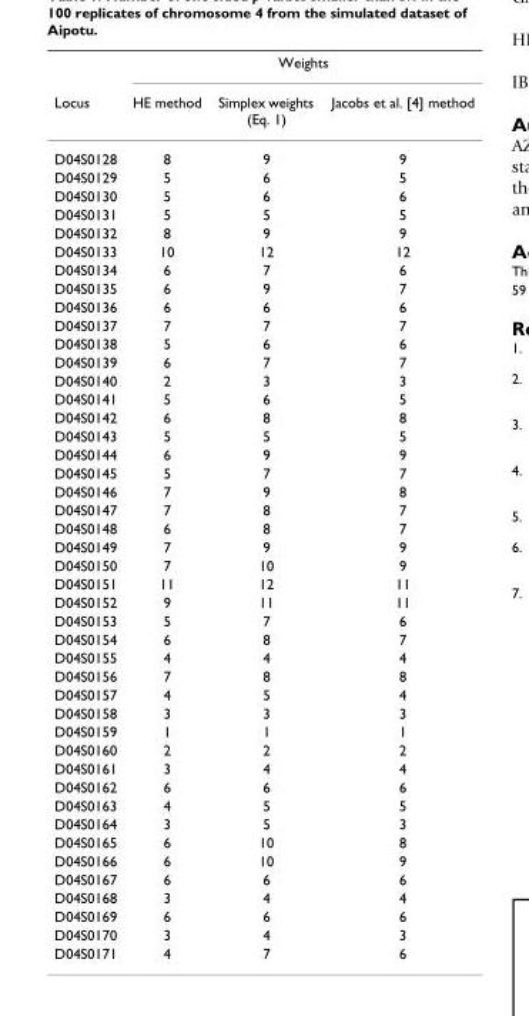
<table><thead><tr><td rowspan="2">Locus</td><td colspan="3">Weights</td></tr><tr><td>HE method</td><td>Simplex weights (Eq. 1)</td><td>Jacobs et al. [4] method</td></tr></thead><tbody><tr><td>D04S0128</td><td>8</td><td>9</td><td>9</td></tr><tr><td>D04S0129</td><td>5</td><td>6</td><td>5</td></tr><tr><td>D04S0130</td><td>5</td><td>6</td><td>6</td></tr><tr><td>D04S0131</td><td>5</td><td>5</td><td>5</td></tr><tr><td>D04S0132</td><td>8</td><td>9</td><td>9</td></tr><tr><td>D04S0133</td><td>10</td><td>12</td><td>12</td></tr><tr><td>D04S0134</td><td>6</td><td>7</td><td>6</td></tr><tr><td>D04S0135</td><td>6</td><td>9</td><td>7</td></tr><tr><td>D04S0136</td><td>6</td><td>6</td><td>6</td></tr><tr><td>D04S0137</td><td>7</td><td>7</td><td>7</td></tr><tr><td>D04S0138</td><td>5</td><td>6</td><td>6</td></tr><tr><td>D04S0139</td><td>6</td><td>7</td><td>7</td></tr><tr><td>D04S0140</td><td>2</td><td>3</td><td>3</td></tr><tr><td>D04S0141</td><td>5</td><td>6</td><td>5</td></tr><tr><td>D04S0142</td><td>6</td><td>8</td><td>8</td></tr><tr><td>D04S0143</td><td>5</td><td>5</td><td>5</td></tr><tr><td>D04S0144</td><td>6</td><td>9</td><td>9</td></tr><tr><td>D04S0145</td><td>5</td><td>7</td><td>7</td></tr><tr><td>D04S0146</td><td>7</td><td>9</td><td>8</td></tr><tr><td>D04S0147</td><td>7</td><td>8</td><td>7</td></tr><tr><td>D04S0148</td><td>6</td><td>8</td><td>7</td></tr><tr><td>D04S0149</td><td>7</td><td>9</td><td>9</td></tr><tr><td>D04S0150</td><td>7</td><td>10</td><td>9</td></tr><tr><td>D04S0151</td><td>11</td><td>12</td><td>11</td></tr><tr><td>D04S0152</td><td>9</td><td>11</td><td>11</td></tr><tr><td>D04S0153</td><td>5</td><td>7</td><td>6</td></tr><tr><td>D04S0154</td><td>6</td><td>8</td><td>7</td></tr><tr><td>D04S0155</td><td>4</td><td>4</td><td>4</td></tr><tr><td>D04S0156</td><td>7</td><td>8</td><td>8</td></tr><tr><td>D04S0157</td><td>4</td><td>5</td><td>4</td></tr><tr><td>D04S0158</td><td>3</td><td>3</td><td>3</td></tr><tr><td>D04S0159</td><td>1</td><td>1</td><td>1</td></tr><tr><td>D04S0160</td><td>2</td><td>2</td><td>2</td></tr><tr><td>D04S0161</td><td>3</td><td>4</td><td>4</td></tr><tr><td>D04S0162</td><td>6</td><td>6</td><td>6</td></tr><tr><td>D04S0163</td><td>4</td><td>5</td><td>5</td></tr><tr><td>D04S0164</td><td>3</td><td>5</td><td>3</td></tr><tr><td>D04S0165</td><td>6</td><td>10</td><td>8</td></tr><tr><td>D04S0166</td><td>6</td><td>10</td><td>9</td></tr><tr><td>D04S0167</td><td>6</td><td>6</td><td>6</td></tr><tr><td>D04S0168</td><td>3</td><td>4</td><td>4</td></tr><tr><td>D04S0169</td><td>6</td><td>6</td><td>6</td></tr><tr><td>D04S0170</td><td>3</td><td>4</td><td>3</td></tr><tr><td>D04S0171</td><td>4</td><td>7</td><td>6</td></tr></tbody></table>